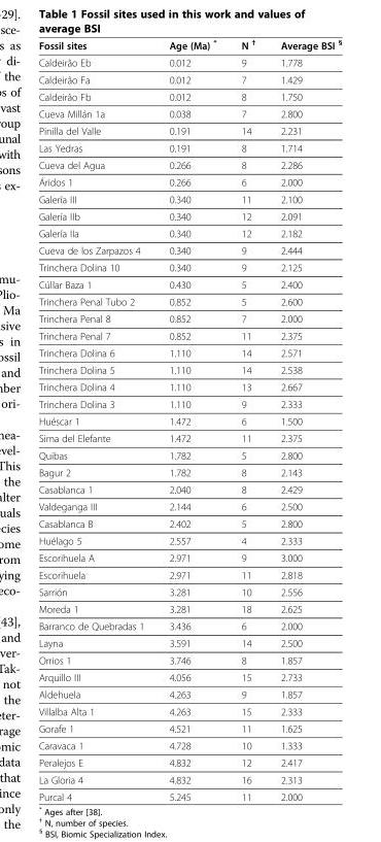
<table><thead><tr><td>Fossil sites</td><td>Age (Ma) *</td><td>N <sup>†</sup></td><td>Average BSI <sup>§</sup></td></tr></thead><tbody><tr><td>Caldeirâo Eb</td><td>0.012</td><td>9</td><td>1.778</td></tr><tr><td>Caldeirâo Fa</td><td>0.012</td><td>7</td><td>1.429</td></tr><tr><td>Caldeirâo Fb</td><td>0.012</td><td>8</td><td>1.750</td></tr><tr><td>Cueva Millán 1a</td><td>0.038</td><td>7</td><td>2.800</td></tr><tr><td>Pinilla del Valle</td><td>0.191</td><td>14</td><td>2.231</td></tr><tr><td>Las Yedras</td><td>0.191</td><td>8</td><td>1.714</td></tr><tr><td>Cueva del Agua</td><td>0.266</td><td>8</td><td>2.286</td></tr><tr><td>Áridos 1</td><td>0.266</td><td>6</td><td>2.000</td></tr><tr><td>Galería III</td><td>0.340</td><td>11</td><td>2.100</td></tr><tr><td>Galería IIb</td><td>0.340</td><td>12</td><td>2.091</td></tr><tr><td>Galería IIa</td><td>0.340</td><td>12</td><td>2.182</td></tr><tr><td>Cueva de los Zarpazos 4</td><td>0.340</td><td>9</td><td>2.444</td></tr><tr><td>Trinchera Dolina 10</td><td>0.340</td><td>9</td><td>2.125</td></tr><tr><td>Cúllar Baza 1</td><td>0.430</td><td>5</td><td>2.400</td></tr><tr><td>Trinchera Penal Tubo 2</td><td>0.852</td><td>5</td><td>2.600</td></tr><tr><td>Trinchera Penal 8</td><td>0.852</td><td>7</td><td>2.000</td></tr><tr><td>Trinchera Penal 7</td><td>0.852</td><td>11</td><td>2.375</td></tr><tr><td>Trinchera Dolina 6</td><td>1.110</td><td>14</td><td>2.571</td></tr><tr><td>Trinchera Dolina 5</td><td>1.110</td><td>14</td><td>2.538</td></tr><tr><td>Trinchera Dolina 4</td><td>1.110</td><td>13</td><td>2.667</td></tr><tr><td>Trinchera Dolina 3</td><td>1.110</td><td>9</td><td>2.333</td></tr><tr><td>Huéscar 1</td><td>1.472</td><td>6</td><td>1.500</td></tr><tr><td>Sima del Elefante</td><td>1.472</td><td>11</td><td>2.375</td></tr><tr><td>Quibas</td><td>1.782</td><td>5</td><td>2.800</td></tr><tr><td>Bagur 2</td><td>1.782</td><td>8</td><td>2.143</td></tr><tr><td>Casablanca 1</td><td>2.040</td><td>8</td><td>2.429</td></tr><tr><td>Valdeganga III</td><td>2.144</td><td>6</td><td>2.500</td></tr><tr><td>Casablanca B</td><td>2.402</td><td>5</td><td>2.800</td></tr><tr><td>Huélago 5</td><td>2.557</td><td>4</td><td>2.333</td></tr><tr><td>Escorihuela A</td><td>2.971</td><td>9</td><td>3.000</td></tr><tr><td>Escorihuela</td><td>2.971</td><td>11</td><td>2.818</td></tr><tr><td>Sarrión</td><td>3.281</td><td>10</td><td>2.556</td></tr><tr><td>Moreda 1</td><td>3.281</td><td>18</td><td>2.625</td></tr><tr><td>Barranco de Quebradas 1</td><td>3.436</td><td>6</td><td>2.000</td></tr><tr><td>Layna</td><td>3.591</td><td>14</td><td>2.500</td></tr><tr><td>Orrios 1</td><td>3.746</td><td>8</td><td>1.857</td></tr><tr><td>Arquillo III</td><td>4.056</td><td>15</td><td>2.733</td></tr><tr><td>Aldehuela</td><td>4.263</td><td>9</td><td>1.857</td></tr><tr><td>Villalba Alta 1</td><td>4.263</td><td>15</td><td>2.333</td></tr><tr><td>Gorafe 1</td><td>4.521</td><td>11</td><td>1.625</td></tr><tr><td>Caravaca 1</td><td>4.728</td><td>10</td><td>1.333</td></tr><tr><td>Peralejos E</td><td>4.832</td><td>12</td><td>2.417</td></tr><tr><td>La Gloria 4</td><td>4.832</td><td>16</td><td>2.313</td></tr><tr><td>Purcal 4</td><td>5.245</td><td>11</td><td>2.000</td></tr></tbody></table>